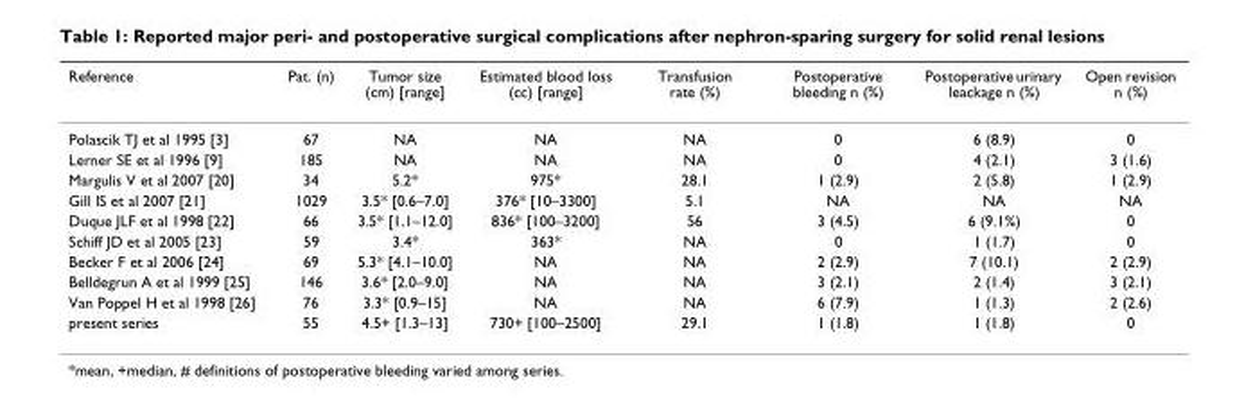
<table><thead><tr><td>Reference</td><td>Pat. (n)</td><td>Tumor size (cm) [range]</td><td>Estimated blood loss (cc) [range]</td><td>Transfusion rate (%)</td><td>Postoperative bleeding n (%)</td><td>Postoperative urinary leackage n (%)</td><td>Open revision n (%)</td></tr></thead><tbody><tr><td>Polascik TJ et al 1995 [3]</td><td>67</td><td>NA</td><td>NA</td><td>NA</td><td>0</td><td>6 (8.9)</td><td>0</td></tr><tr><td>Lerner SE et al 1996 [9]</td><td>185</td><td>NA</td><td>NA</td><td>NA</td><td>0</td><td>4 (2.1)</td><td>3 (1.6)</td></tr><tr><td>Margulis V et al 2007 [20]</td><td>34</td><td>5.2*</td><td>975*</td><td>28.1</td><td>1 (2.9)</td><td>2 (5.8)</td><td>1 (2.9)</td></tr><tr><td>Gill IS et al 2007 [21]</td><td>1029</td><td>3.5* [0.6–7.0]</td><td>376* [10–3300]</td><td>5.1</td><td>NA</td><td>NA</td><td>NA</td></tr><tr><td>Duque JLF et al 1998 [22]</td><td>66</td><td>3.5* [1.1–12.0]</td><td>836* [100–3200]</td><td>56</td><td>3 (4.5)</td><td>6 (9.1%)</td><td>0</td></tr><tr><td>Schiff JD et al 2005 [23]</td><td>59</td><td>3.4*</td><td>363*</td><td>NA</td><td>0</td><td>1 (1.7)</td><td>0</td></tr><tr><td>Becker F et al 2006 [24]</td><td>69</td><td>5.3* [4.1–10.0]</td><td>NA</td><td>NA</td><td>2 (2.9)</td><td>7 (10.1)</td><td>2 (2.9)</td></tr><tr><td>Belldegrun A et al 1999 [25]</td><td>146</td><td>3.6* [2.0–9.0]</td><td>NA</td><td>NA</td><td>3 (2.1)</td><td>2 (1.4)</td><td>3 (2.1)</td></tr><tr><td>Van Poppel H et al 1998 [26]</td><td>76</td><td>3.3* [0.9–15]</td><td>NA</td><td>NA</td><td>6 (7.9)</td><td>1 (1.3)</td><td>2 (2.6)</td></tr><tr><td>present series</td><td>55</td><td>4.5+ [1.3–13]</td><td>730+ [100–2500]</td><td>29.1</td><td>1 (1.8)</td><td>1 (1.8)</td><td>0</td></tr></tbody></table>